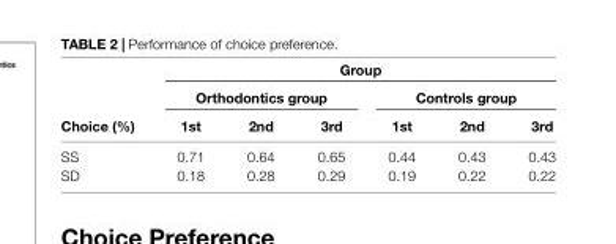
<table><thead><tr><td rowspan="3">Choice (%)</td><td colspan="6">Group</td></tr><tr><td colspan="3">Orthodontics group</td><td colspan="3">Controls group</td></tr><tr><td>1st</td><td>2nd</td><td>3rd</td><td>1st</td><td>2nd</td><td>3rd</td></tr></thead><tbody><tr><td>SS</td><td>0.71</td><td>0.64</td><td>0.65</td><td>0.44</td><td>0.43</td><td>0.43</td></tr><tr><td>SD</td><td>0.18</td><td>0.28</td><td>0.29</td><td>0.19</td><td>0.22</td><td>0.22</td></tr></tbody></table>